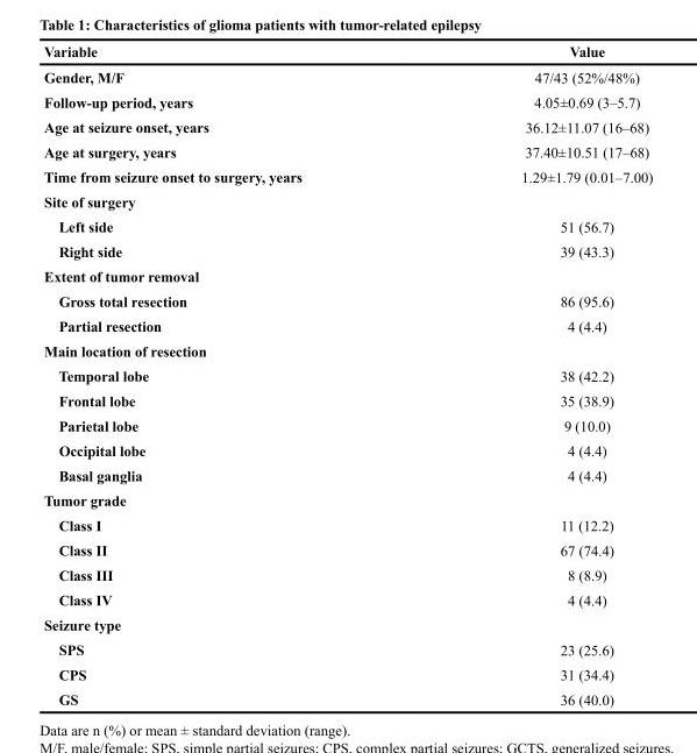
<table><thead><tr><td>Variable</td><td>Value</td></tr></thead><tbody><tr><td>Gender, M/F</td><td>47/43 (52%/48%)</td></tr><tr><td>Follow-up period, years</td><td>4.05±0.69 (3–5.7)</td></tr><tr><td>Age at seizure onset, years</td><td>36.12±11.07 (16–68)</td></tr><tr><td>Age at surgery, years</td><td>37.40±10.51 (17–68)</td></tr><tr><td>Time from seizure onset to surgery, years</td><td>1.29±1.79 (0.01–7.00)</td></tr><tr><td colspan="2">Site of surgery</td></tr><tr><td>Left side</td><td>51 (56.7)</td></tr><tr><td>Right side</td><td>39 (43.3)</td></tr><tr><td colspan="2">Extent of tumor removal</td></tr><tr><td>Gross total resection</td><td>86 (95.6)</td></tr><tr><td>Partial resection</td><td>4 (4.4)</td></tr><tr><td colspan="2">Main location of resection</td></tr><tr><td>Temporal lobe</td><td>38 (42.2)</td></tr><tr><td>Frontal lobe</td><td>35 (38.9)</td></tr><tr><td>Parietal lobe</td><td>9 (10.0)</td></tr><tr><td>Occipital lobe</td><td>4 (4.4)</td></tr><tr><td>Basal ganglia</td><td>4 (4.4)</td></tr><tr><td colspan="2">Tumor grade</td></tr><tr><td>Class I</td><td>11 (12.2)</td></tr><tr><td>Class II</td><td>67 (74.4)</td></tr><tr><td>Class III</td><td>8 (8.9)</td></tr><tr><td>Class IV</td><td>4 (4.4)</td></tr><tr><td colspan="2">Seizure type</td></tr><tr><td>SPS</td><td>23 (25.6)</td></tr><tr><td>CPS</td><td>31 (34.4)</td></tr><tr><td>GS</td><td>36 (40.0)</td></tr></tbody></table>